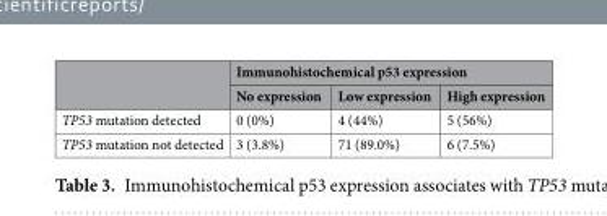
<table><thead><tr><td rowspan="2"></td><td colspan="3">Immunohistochemical p53 expression</td></tr><tr><td>No expression</td><td>Low expression</td><td>High expression</td></tr></thead><tbody><tr><td>TP53 mutation detected</td><td>0 (0%)</td><td>4 (44%)</td><td>5 (56%)</td></tr><tr><td>TP53 mutation not detected</td><td>3 (3.8%)</td><td>71 (89.0%)</td><td>6 (7.5%)</td></tr></tbody></table>